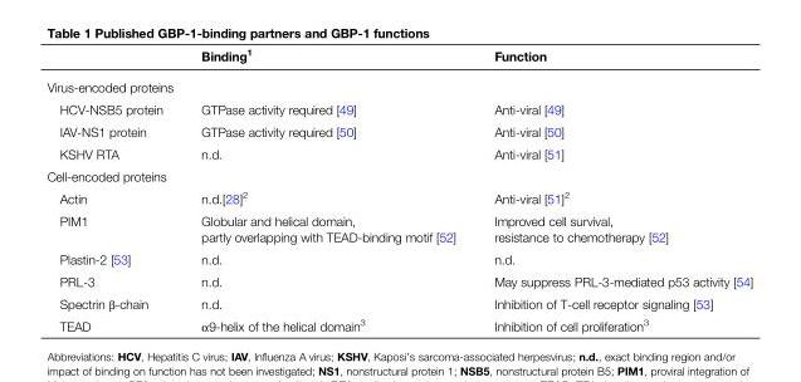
<table><thead><tr><td></td><td>Binding<sup>1</sup></td><td>Function</td></tr></thead><tbody><tr><td colspan="3">Virus-encoded proteins</td></tr><tr><td>HCV-NSB5 protein</td><td>GTPase activity required [49]</td><td>Anti-viral [49]</td></tr><tr><td>IAV-NS1 protein</td><td>GTPase activity required [50]</td><td>Anti-viral [50]</td></tr><tr><td>KSHV RTA</td><td>n.d.</td><td>Anti-viral [51]</td></tr><tr><td colspan="3">Cell-encoded proteins</td></tr><tr><td>Actin</td><td>n.d.[28]<sup>2</sup></td><td>Anti-viral [51]<sup>2</sup></td></tr><tr><td>PIM1</td><td>Globular and helical domain, partly overlapping with TEAD-binding motif [52]</td><td>Improved cell survival, resistance to chemotherapy [52]</td></tr><tr><td>Plastin-2 [53]</td><td>n.d.</td><td>n.d.</td></tr><tr><td>PRL-3</td><td>n.d.</td><td>May suppress PRL-3-mediated p53 activity [54]</td></tr><tr><td>Spectrin β-chain</td><td>n.d.</td><td>Inhibition of T-cell receptor signaling [53]</td></tr><tr><td>TEAD</td><td>α9-helix of the helical domain<sup>3</sup></td><td>Inhibition of cell proliferation<sup>3</sup></td></tr></tbody></table>